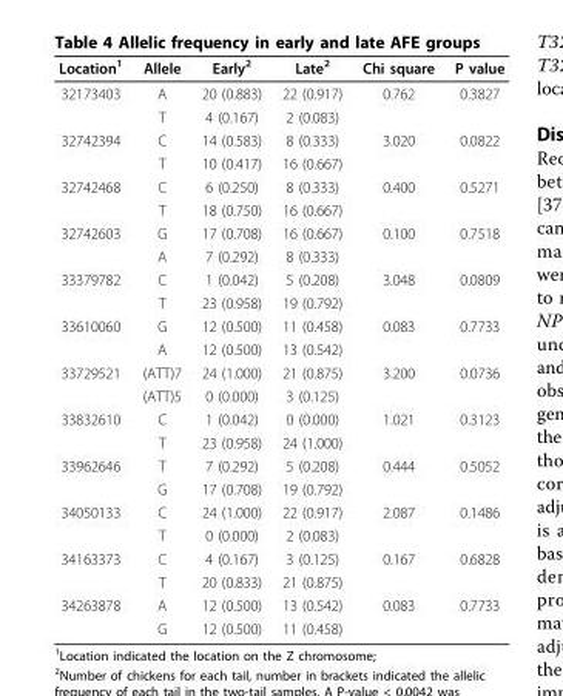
<table><thead><tr><td>Location<sup>1</sup></td><td>Allele</td><td>Early<sup>2</sup></td><td>Late<sup>2</sup></td><td>Chi square</td><td>P value</td></tr></thead><tbody><tr><td rowspan="2">32173403</td><td>A</td><td>20 (0.883)</td><td>22 (0.917)</td><td>0.762</td><td>0.3827</td></tr><tr><td>T</td><td>4 (0.167)</td><td>2 (0.083)</td><td></td><td></td></tr><tr><td rowspan="2">32742394</td><td>C</td><td>14 (0.583)</td><td>8 (0.333)</td><td>3.020</td><td>0.0822</td></tr><tr><td>T</td><td>10 (0.417)</td><td>16 (0.667)</td><td></td><td></td></tr><tr><td rowspan="2">32742468</td><td>C</td><td>6 (0.250)</td><td>8 (0.333)</td><td>0.400</td><td>0.5271</td></tr><tr><td>T</td><td>18 (0.750)</td><td>16 (0.667)</td><td></td><td></td></tr><tr><td rowspan="2">32742603</td><td>G</td><td>17 (0.708)</td><td>16 (0.667)</td><td>0.100</td><td>0.7518</td></tr><tr><td>A</td><td>7 (0.292)</td><td>8 (0.333)</td><td></td><td></td></tr><tr><td rowspan="2">33379782</td><td>C</td><td>1 (0.042)</td><td>5 (0.208)</td><td>3.048</td><td>0.0809</td></tr><tr><td>T</td><td>23 (0.958)</td><td>19 (0.792)</td><td></td><td></td></tr><tr><td rowspan="2">33610060</td><td>G</td><td>12 (0.500)</td><td>11 (0.458)</td><td>0.083</td><td>0.7733</td></tr><tr><td>A</td><td>12 (0.500)</td><td>13 (0.542)</td><td></td><td></td></tr><tr><td rowspan="2">33729521</td><td>(ATT)7</td><td>24 (1.000)</td><td>21 (0.875)</td><td>3.200</td><td>0.0736</td></tr><tr><td>(ATT)5</td><td>0 (0.000)</td><td>3 (0.125)</td><td></td><td></td></tr><tr><td rowspan="2">33832610</td><td>C</td><td>1 (0.042)</td><td>0 (0.000)</td><td>1.021</td><td>0.3123</td></tr><tr><td>T</td><td>23 (0.958)</td><td>24 (1.000)</td><td></td><td></td></tr><tr><td rowspan="2">33962646</td><td>T</td><td>7 (0.292)</td><td>5 (0.208)</td><td>0.444</td><td>0.5052</td></tr><tr><td>G</td><td>17 (0.708)</td><td>19 (0.792)</td><td></td><td></td></tr><tr><td rowspan="2">34050133</td><td>C</td><td>24 (1.000)</td><td>22 (0.917)</td><td>2.087</td><td>0.1486</td></tr><tr><td>T</td><td>0 (0.000)</td><td>2 (0.083)</td><td></td><td></td></tr><tr><td rowspan="2">34163373</td><td>C</td><td>4 (0.167)</td><td>3 (0.125)</td><td>0.167</td><td>0.6828</td></tr><tr><td>T</td><td>20 (0.833)</td><td>21 (0.875)</td><td></td><td></td></tr><tr><td rowspan="2">34263878</td><td>A</td><td>12 (0.500)</td><td>13 (0.542)</td><td>0.083</td><td>0.7733</td></tr><tr><td>G</td><td>12 (0.500)</td><td>11 (0.458)</td><td></td><td></td></tr></tbody></table>